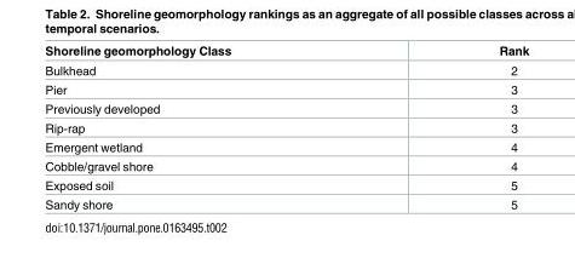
<table><thead><tr><td>Shoreline geomorphology Class</td><td>Rank</td></tr></thead><tbody><tr><td>Bulkhead</td><td>2</td></tr><tr><td>Pier</td><td>3</td></tr><tr><td>Previously developed</td><td>3</td></tr><tr><td>Rip-rap</td><td>3</td></tr><tr><td>Emergent wetland</td><td>4</td></tr><tr><td>Cobble/gravel shore</td><td>4</td></tr><tr><td>Exposed soil</td><td>5</td></tr><tr><td>Sandy shore</td><td>5</td></tr></tbody></table>